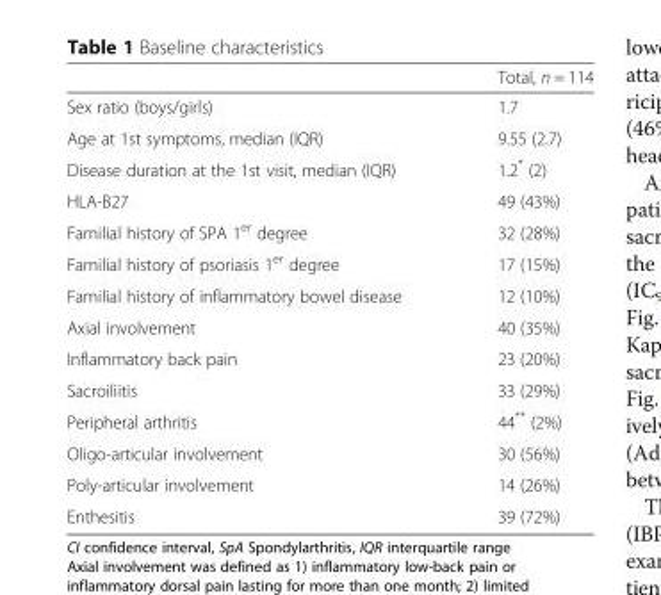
<table><thead><tr><td></td><td>Total, n = 114</td></tr></thead><tbody><tr><td>Sex ratio (boys/girls)</td><td>1.7</td></tr><tr><td>Age at 1st symptoms, median (IQR)</td><td>9.55 (2.7)</td></tr><tr><td>Disease duration at the 1st visit, median (IQR)</td><td>1.2* (2)</td></tr><tr><td>HLA-B27</td><td>49 (43%)</td></tr><tr><td>Familial history of SPA 1<sup>er</sup> degree</td><td>32 (28%)</td></tr><tr><td>Familial history of psoriasis 1<sup>er</sup> degree</td><td>17 (15%)</td></tr><tr><td>Familial history of inflammatory bowel disease</td><td>12 (10%)</td></tr><tr><td>Axial involvement</td><td>40 (35%)</td></tr><tr><td>Inflammatory back pain</td><td>23 (20%)</td></tr><tr><td>Sacroiliitis</td><td>33 (29%)</td></tr><tr><td>Peripheral arthritis</td><td>44** (2%)</td></tr><tr><td>Oligo-articular involvement</td><td>30 (56%)</td></tr><tr><td>Poly-articular involvement</td><td>14 (26%)</td></tr><tr><td>Enthesitis</td><td>39 (72%)</td></tr></tbody></table>